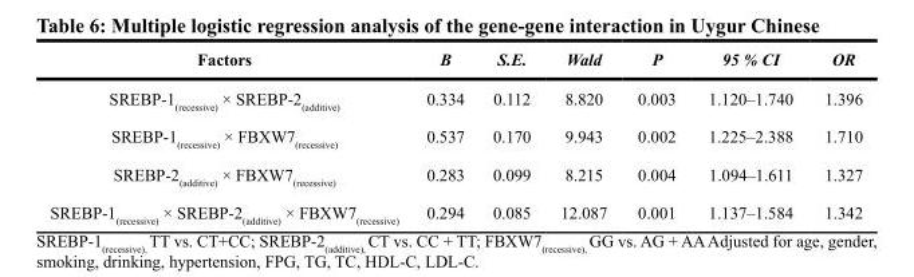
<table><thead><tr><td>Factors</td><td>B</td><td>S.E.</td><td>Wald</td><td>P</td><td>95 % CI</td><td>OR</td></tr></thead><tbody><tr><td>SREBP-1<sub>(recessive)</sub> × SREBP-2<sub>(additive)</sub></td><td>0.334</td><td>0.112</td><td>8.820</td><td>0.003</td><td>1.120–1.740</td><td>1.396</td></tr><tr><td>SREBP-1<sub>(recessive)</sub> × FBXW7<sub>(recessive)</sub></td><td>0.537</td><td>0.170</td><td>9.943</td><td>0.002</td><td>1.225–2.388</td><td>1.710</td></tr><tr><td>SREBP-2<sub>(additive)</sub> × FBXW7<sub>(recessive)</sub></td><td>0.283</td><td>0.099</td><td>8.215</td><td>0.004</td><td>1.094–1.611</td><td>1.327</td></tr><tr><td>SREBP-1<sub>(recessive)</sub> × SREBP-2<sub>(additive)</sub> × FBXW7<sub>(recessive)</sub></td><td>0.294</td><td>0.085</td><td>12.087</td><td>0.001</td><td>1.137–1.584</td><td>1.342</td></tr></tbody></table>